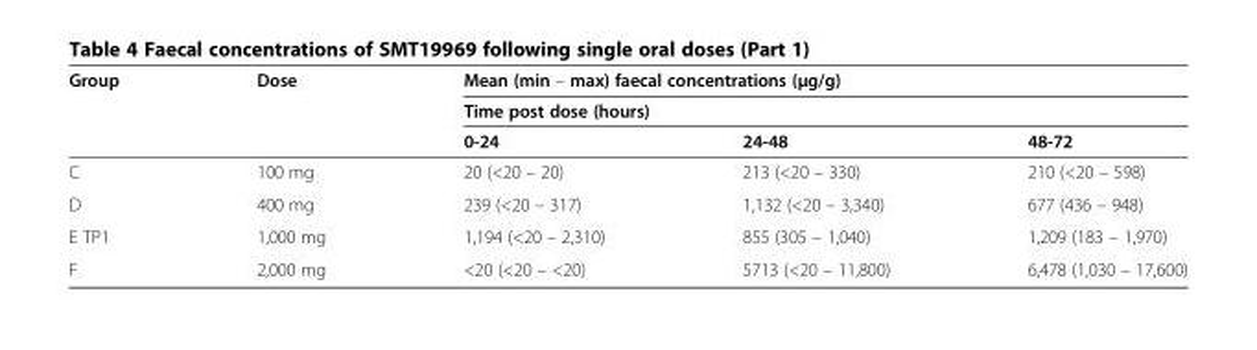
<table><thead><tr><td rowspan="3">Group</td><td rowspan="3">Dose</td><td rowspan="2" colspan="3">Mean (min – max) faecal concentrations (μg/g) Time post dose (hours)</td></tr><tr></tr><tr><td>0-24</td><td>24-48</td><td>48-72</td></tr></thead><tbody><tr><td>C</td><td>100 mg</td><td>20 (&lt;20 – 20)</td><td>213 (&lt;20 – 330)</td><td>210 (&lt;20 – 598)</td></tr><tr><td>D</td><td>400 mg</td><td>239 (&lt;20 – 317)</td><td>1,132 (&lt;20 – 3,340)</td><td>677 (436 – 948)</td></tr><tr><td>E TP1</td><td>1,000 mg</td><td>1,194 (&lt;20 – 2,310)</td><td>855 (305 – 1,040)</td><td>1,209 (183 – 1,970)</td></tr><tr><td>F</td><td>2,000 mg</td><td>&lt;20 (&lt;20 – &lt;20)</td><td>5713 (&lt;20 – 11,800)</td><td>6,478 (1,030 – 17,600)</td></tr></tbody></table>